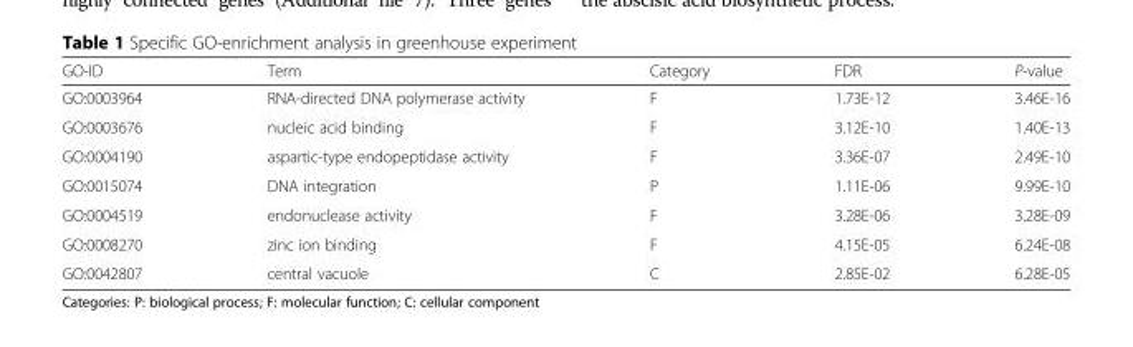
<table><thead><tr><td>GO-ID</td><td>Term</td><td>Category</td><td>FDR</td><td>P-value</td></tr></thead><tbody><tr><td>GO:0003964</td><td>RNA-directed DNA polymerase activity</td><td>F</td><td>1.73E-12</td><td>3.46E-16</td></tr><tr><td>GO:0003676</td><td>nucleic acid binding</td><td>F</td><td>3.12E-10</td><td>1.40E-13</td></tr><tr><td>GO:0004190</td><td>aspartic-type endopeptidase activity</td><td>F</td><td>3.36E-07</td><td>2.49E-10</td></tr><tr><td>GO:0015074</td><td>DNA integration</td><td>P</td><td>1.11E-06</td><td>9.99E-10</td></tr><tr><td>GO:0004519</td><td>endonuclease activity</td><td>F</td><td>3.28E-06</td><td>3.28E-09</td></tr><tr><td>GO:0008270</td><td>zinc ion binding</td><td>F</td><td>4.15E-05</td><td>6.24E-08</td></tr><tr><td>GO:0042807</td><td>central vacuole</td><td>C</td><td>2.85E-02</td><td>6.28E-05</td></tr></tbody></table>